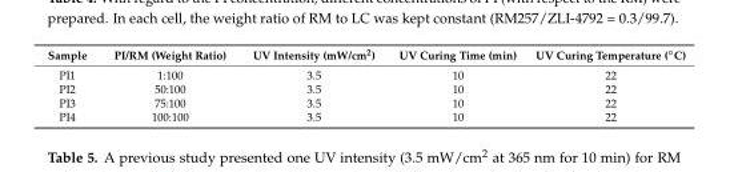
<table><thead><tr><td>Sample</td><td>PI/RM (Weight Ratio)</td><td>UV Intensity (mW/cm<sup>2</sup>)</td><td>UV Curing Time (min)</td><td>UV Curing Temperature (◦C)</td></tr></thead><tbody><tr><td>PI1</td><td>1:100</td><td>3.5</td><td>10</td><td>22</td></tr><tr><td>PI2</td><td>50:100</td><td>3.5</td><td>10</td><td>22</td></tr><tr><td>PI3</td><td>75:100</td><td>3.5</td><td>10</td><td>22</td></tr><tr><td>PI4</td><td>100:100</td><td>3.5</td><td>10</td><td>22</td></tr></tbody></table>